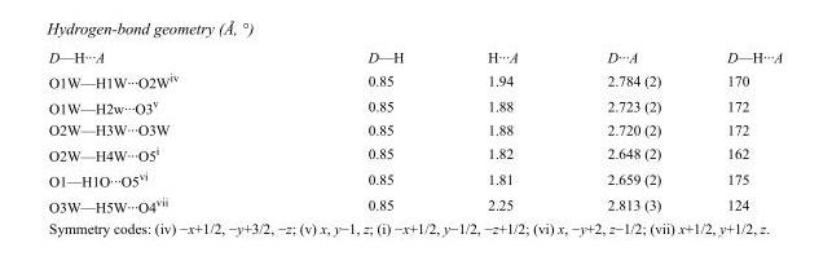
<table><tbody><tr><td>D—H···A</td><td>D—H</td><td>H···A</td><td>D···A</td><td>D—H···A</td></tr><tr><td>O1W—H1W···O2W<sup>iv</sup></td><td>0.85</td><td>1.94</td><td>2.784 (2)</td><td>170</td></tr><tr><td>O1W—H2w···O3<sup>v</sup></td><td>0.85</td><td>1.88</td><td>2.723 (2)</td><td>172</td></tr><tr><td>O2W—H3W···O3W</td><td>0.85</td><td>1.88</td><td>2.720 (2)</td><td>172</td></tr><tr><td>O2W—H4W···O5<sup>i</sup></td><td>0.85</td><td>1.82</td><td>2.648 (2)</td><td>162</td></tr><tr><td>O1—H1O···O5<sup>vi</sup></td><td>0.85</td><td>1.81</td><td>2.659 (2)</td><td>175</td></tr><tr><td>O3W—H5W···O4<sup>vii</sup></td><td>0.85</td><td>2.25</td><td>2.813 (3)</td><td>124</td></tr></tbody></table>